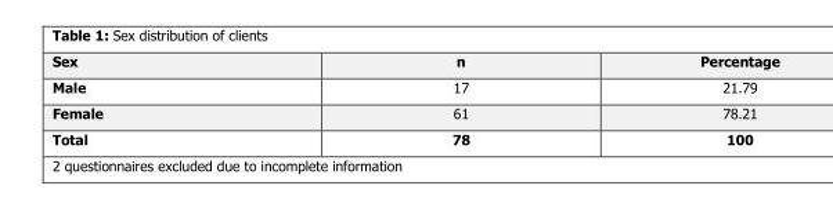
<table><thead><tr><td>Sex</td><td>n</td><td>Percentage</td></tr></thead><tbody><tr><td>Male</td><td>17</td><td>21.79</td></tr><tr><td>Female</td><td>61</td><td>78.21</td></tr><tr><td>Total</td><td>78</td><td>100</td></tr></tbody></table>